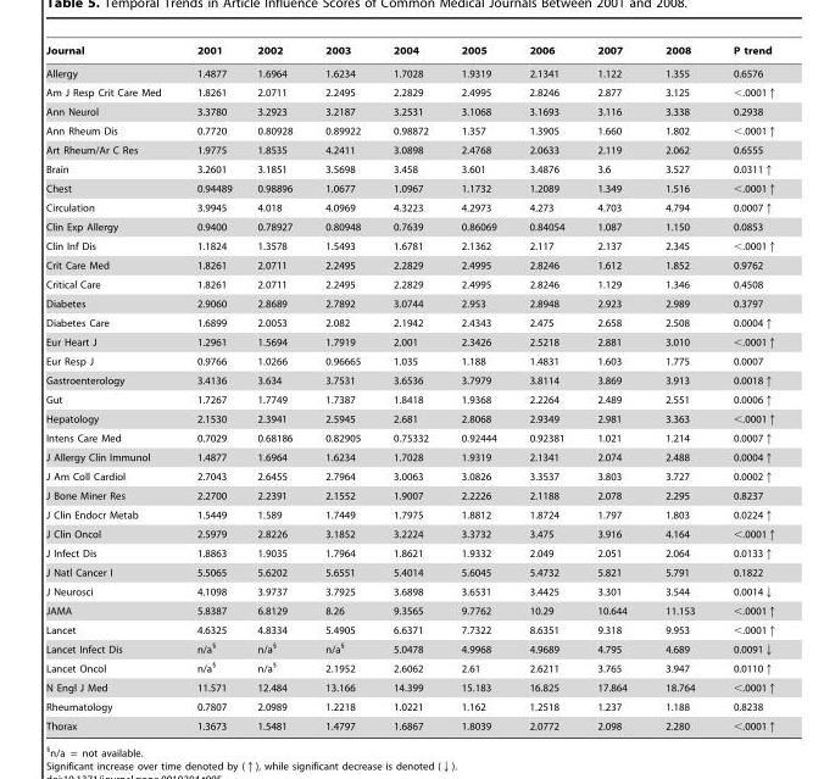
<table><thead><tr><td>Journal</td><td>2001</td><td>2002</td><td>2003</td><td>2004</td><td>2005</td><td>2006</td><td>2007</td><td>2008</td><td>P trend</td></tr></thead><tbody><tr><td>Allergy</td><td>1.4877</td><td>1.6964</td><td>1.6234</td><td>1.7028</td><td>1.9319</td><td>2.1341</td><td>1.122</td><td>1.355</td><td>0.6576</td></tr><tr><td>Am J Resp Crit Care Med</td><td>1.8261</td><td>2.0711</td><td>2.2495</td><td>2.2829</td><td>2.4995</td><td>2.8246</td><td>2.877</td><td>3.125</td><td>&lt;.0001↑</td></tr><tr><td>Ann Neurol</td><td>3.3780</td><td>3.2923</td><td>3.2187</td><td>3.2531</td><td>3.1068</td><td>3.1693</td><td>3.116</td><td>3.338</td><td>0.2938</td></tr><tr><td>Ann Rheum Dis</td><td>0.7720</td><td>0.80928</td><td>0.89922</td><td>0.98872</td><td>1.357</td><td>1.3905</td><td>1.660</td><td>1.802</td><td>&lt;.0001↑</td></tr><tr><td>Art Rheum/Ar C Res</td><td>1.9775</td><td>1.8535</td><td>4.2411</td><td>3.0898</td><td>2.4768</td><td>2.0633</td><td>2.119</td><td>2.062</td><td>0.6555</td></tr><tr><td>Brain</td><td>3.2601</td><td>3.1851</td><td>3.5698</td><td>3.458</td><td>3.601</td><td>3.4876</td><td>3.6</td><td>3.527</td><td>0.0311↑</td></tr><tr><td>Chest</td><td>0.94489</td><td>0.98896</td><td>1.0677</td><td>1.0967</td><td>1.1732</td><td>1.2089</td><td>1.349</td><td>1.516</td><td>&lt;.0001↑</td></tr><tr><td>Circulation</td><td>3.9945</td><td>4.018</td><td>4.0969</td><td>4.3223</td><td>4.2973</td><td>4.273</td><td>4.703</td><td>4.794</td><td>0.0007↑</td></tr><tr><td>Clin Exp Allergy</td><td>0.9400</td><td>0.78927</td><td>0.80948</td><td>0.7639</td><td>0.86069</td><td>0.84054</td><td>1.087</td><td>1.150</td><td>0.0853</td></tr><tr><td>Clin Inf Dis</td><td>1.1824</td><td>1.3578</td><td>1.5493</td><td>1.6781</td><td>2.1362</td><td>2.117</td><td>2.137</td><td>2.345</td><td>&lt;.0001↑</td></tr><tr><td>Crit Care Med</td><td>1.8261</td><td>2.0711</td><td>2.2495</td><td>2.2829</td><td>2.4995</td><td>2.8246</td><td>1.612</td><td>1.852</td><td>0.9762</td></tr><tr><td>Critical Care</td><td>1.8261</td><td>2.0711</td><td>2.2495</td><td>2.2829</td><td>2.4995</td><td>2.8246</td><td>1.129</td><td>1.346</td><td>0.4508</td></tr><tr><td>Diabetes</td><td>2.9060</td><td>2.8689</td><td>2.7892</td><td>3.0744</td><td>2.953</td><td>2.8948</td><td>2.923</td><td>2.989</td><td>0.3797</td></tr><tr><td>Diabetes Care</td><td>1.6899</td><td>2.0053</td><td>2.082</td><td>2.1942</td><td>2.4343</td><td>2.475</td><td>2.658</td><td>2.508</td><td>0.0004↑</td></tr><tr><td>Eur Heart J</td><td>1.2961</td><td>1.5694</td><td>1.7919</td><td>2.001</td><td>2.3426</td><td>2.5218</td><td>2.881</td><td>3.010</td><td>&lt;.0001↑</td></tr><tr><td>Eur Resp J</td><td>0.9766</td><td>1.0266</td><td>0.96665</td><td>1.035</td><td>1.188</td><td>1.4831</td><td>1.603</td><td>1.775</td><td>0.0007</td></tr><tr><td>Gastroenterology</td><td>3.4136</td><td>3.634</td><td>3.7531</td><td>3.6536</td><td>3.7979</td><td>3.8114</td><td>3.869</td><td>3.913</td><td>0.0018↑</td></tr><tr><td>Gut</td><td>1.7267</td><td>1.7749</td><td>1.7387</td><td>1.8418</td><td>1.9368</td><td>2.2264</td><td>2.489</td><td>2.551</td><td>0.0006↑</td></tr><tr><td>Hepatology</td><td>2.1530</td><td>2.3941</td><td>2.5945</td><td>2.681</td><td>2.8068</td><td>2.9349</td><td>2.981</td><td>3.363</td><td>&lt;.0001↑</td></tr><tr><td>Intens Care Med</td><td>0.7029</td><td>0.68186</td><td>0.82905</td><td>0.75332</td><td>0.92444</td><td>0.92381</td><td>1.021</td><td>1.214</td><td>0.0007↑</td></tr><tr><td>J Allergy Clin Immunol</td><td>1.4877</td><td>1.6964</td><td>1.6234</td><td>1.7028</td><td>1.9319</td><td>2.1341</td><td>2.074</td><td>2.488</td><td>0.0004↑</td></tr><tr><td>J Am Coll Cardiol</td><td>2.7043</td><td>2.6455</td><td>2.7964</td><td>3.0063</td><td>3.0826</td><td>3.3537</td><td>3.803</td><td>3.727</td><td>0.0002↑</td></tr><tr><td>J Bone Miner Res</td><td>2.2700</td><td>2.2391</td><td>2.1552</td><td>1.9007</td><td>2.2226</td><td>2.1188</td><td>2.078</td><td>2.295</td><td>0.8237</td></tr><tr><td>J Clin Endocr Metab</td><td>1.5449</td><td>1.589</td><td>1.7449</td><td>1.7975</td><td>1.8812</td><td>1.8724</td><td>1.797</td><td>1.803</td><td>0.0224↑</td></tr><tr><td>J Clin Oncol</td><td>2.5979</td><td>2.8226</td><td>3.1852</td><td>3.2224</td><td>3.3732</td><td>3.475</td><td>3.916</td><td>4.164</td><td>&lt;.0001↑</td></tr><tr><td>J Infect Dis</td><td>1.8863</td><td>1.9035</td><td>1.7964</td><td>1.8621</td><td>1.9332</td><td>2.049</td><td>2.051</td><td>2.064</td><td>0.0133↑</td></tr><tr><td>J Natl Cancer I</td><td>5.5065</td><td>5.6202</td><td>5.6551</td><td>5.4014</td><td>5.6045</td><td>5.4732</td><td>5.821</td><td>5.791</td><td>0.1822</td></tr><tr><td>J Neurosci</td><td>4.1098</td><td>3.9737</td><td>3.7925</td><td>3.6898</td><td>3.6531</td><td>3.4425</td><td>3.301</td><td>3.544</td><td>0.0014↓</td></tr><tr><td>JAMA</td><td>5.8387</td><td>6.8129</td><td>8.26</td><td>9.3565</td><td>9.7762</td><td>10.29</td><td>10.644</td><td>11.153</td><td>&lt;.0001↑</td></tr><tr><td>Lancet</td><td>4.6325</td><td>4.8334</td><td>5.4905</td><td>6.6371</td><td>7.7322</td><td>8.6351</td><td>9.318</td><td>9.953</td><td>&lt;.0001↑</td></tr><tr><td>Lancet Infect Dis</td><td>n/a§</td><td>n/a§</td><td>n/a§</td><td>5.0478</td><td>4.9968</td><td>4.9689</td><td>4.795</td><td>4.689</td><td>0.0091↓</td></tr><tr><td>Lancet Oncol</td><td>n/a§</td><td>n/a§</td><td>2.1952</td><td>2.6062</td><td>2.61</td><td>2.6211</td><td>3.765</td><td>3.947</td><td>0.0110↑</td></tr><tr><td>N Engl J Med</td><td>11.571</td><td>12.484</td><td>13.166</td><td>14.399</td><td>15.183</td><td>16.825</td><td>17.864</td><td>18.764</td><td>&lt;.0001↑</td></tr><tr><td>Rheumatology</td><td>0.7807</td><td>2.0989</td><td>1.2218</td><td>1.0221</td><td>1.162</td><td>1.2518</td><td>1.237</td><td>1.188</td><td>0.8238</td></tr><tr><td>Thorax</td><td>1.3673</td><td>1.5481</td><td>1.4797</td><td>1.6867</td><td>1.8039</td><td>2.0772</td><td>2.098</td><td>2.280</td><td>&lt;.0001↑</td></tr></tbody></table>